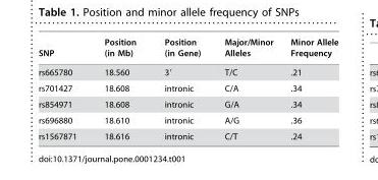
<table><thead><tr><td>SNP</td><td>Position (in Mb)</td><td>Position (in Gene)</td><td>Major/Minor Alleles</td><td>Minor Allele Frequency</td></tr></thead><tbody><tr><td>rs665780</td><td>18.560</td><td>3′</td><td>T/C</td><td>.21</td></tr><tr><td>rs701427</td><td>18.608</td><td>intronic</td><td>C/A</td><td>.34</td></tr><tr><td>rs854971</td><td>18.608</td><td>intronic</td><td>G/A</td><td>.34</td></tr><tr><td>rs696880</td><td>18.610</td><td>intronic</td><td>A/G</td><td>.36</td></tr><tr><td>rs1567871</td><td>18.616</td><td>intronic</td><td>C/T</td><td>.24</td></tr></tbody></table>